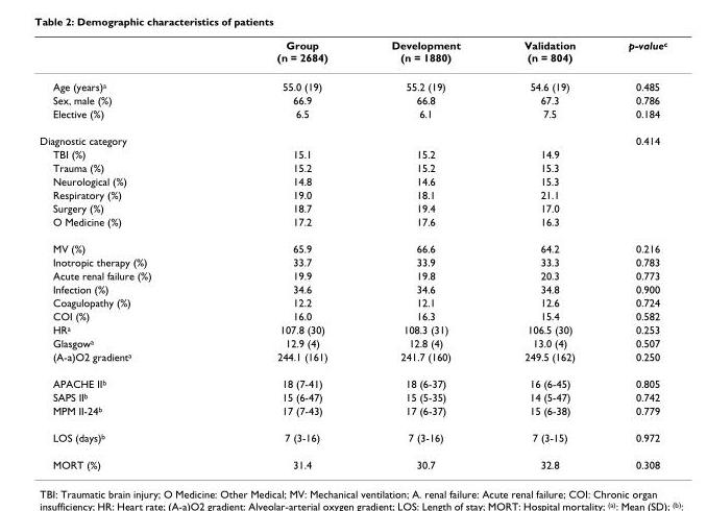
<table><thead><tr><td></td><td>Group (n = 2684)</td><td>Development (n = 1880)</td><td>Validation (n = 804)</td><td>p-value<sup>c</sup></td></tr></thead><tbody><tr><td>Age (years)<sup>a</sup></td><td>55.0 (19)</td><td>55.2 (19)</td><td>54.6 (19)</td><td>0.485</td></tr><tr><td>Sex, male (%)</td><td>66.9</td><td>66.8</td><td>67.3</td><td>0.786</td></tr><tr><td>Elective (%)</td><td>6.5</td><td>6.1</td><td>7.5</td><td>0.184</td></tr><tr><td>Diagnostic category</td><td></td><td></td><td></td><td>0.414</td></tr><tr><td>TBI (%)</td><td>15.1</td><td>15.2</td><td>14.9</td><td></td></tr><tr><td>Trauma (%)</td><td>15.2</td><td>15.2</td><td>15.3</td><td></td></tr><tr><td>Neurological (%)</td><td>14.8</td><td>14.6</td><td>15.3</td><td></td></tr><tr><td>Respiratory (%)</td><td>19.0</td><td>18.1</td><td>21.1</td><td></td></tr><tr><td>Surgery (%)</td><td>18.7</td><td>19.4</td><td>17.0</td><td></td></tr><tr><td>O Medicine (%)</td><td>17.2</td><td>17.6</td><td>16.3</td><td></td></tr><tr><td>MV (%)</td><td>65.9</td><td>66.6</td><td>64.2</td><td>0.216</td></tr><tr><td>Inotropic therapy (%)</td><td>33.7</td><td>33.9</td><td>33.3</td><td>0.783</td></tr><tr><td>Acute renal failure (%)</td><td>19.9</td><td>19.8</td><td>20.3</td><td>0.773</td></tr><tr><td>Infection (%)</td><td>34.6</td><td>34.6</td><td>34.8</td><td>0.900</td></tr><tr><td>Coagulopathy (%)</td><td>12.2</td><td>12.1</td><td>12.6</td><td>0.724</td></tr><tr><td>COI (%)</td><td>16.0</td><td>16.3</td><td>15.4</td><td>0.582</td></tr><tr><td>HR<sup>a</sup></td><td>107.8 (30)</td><td>108.3 (31)</td><td>106.5 (30)</td><td>0.253</td></tr><tr><td>Glasgow<sup>a</sup></td><td>12.9 (4)</td><td>12.8 (4)</td><td>13.0 (4)</td><td>0.507</td></tr><tr><td>(A-a)O2 gradient<sup>a</sup></td><td>244.1 (161)</td><td>241.7 (160)</td><td>249.5 (162)</td><td>0.250</td></tr><tr><td>APACHE II<sup>b</sup></td><td>18 (7-41)</td><td>18 (6-37)</td><td>16 (6-45)</td><td>0.805</td></tr><tr><td>SAPS II<sup>b</sup></td><td>15 (6-47)</td><td>15 (5-35)</td><td>14 (5-47)</td><td>0.742</td></tr><tr><td>MPM II-24<sup>b</sup></td><td>17 (7-43)</td><td>17 (6-37)</td><td>15 (6-38)</td><td>0.779</td></tr><tr><td>LOS (days)<sup>b</sup></td><td>7 (3-16)</td><td>7 (3-16)</td><td>7 (3-15)</td><td>0.972</td></tr><tr><td>MORT (%)</td><td>31.4</td><td>30.7</td><td>32.8</td><td>0.308</td></tr></tbody></table>